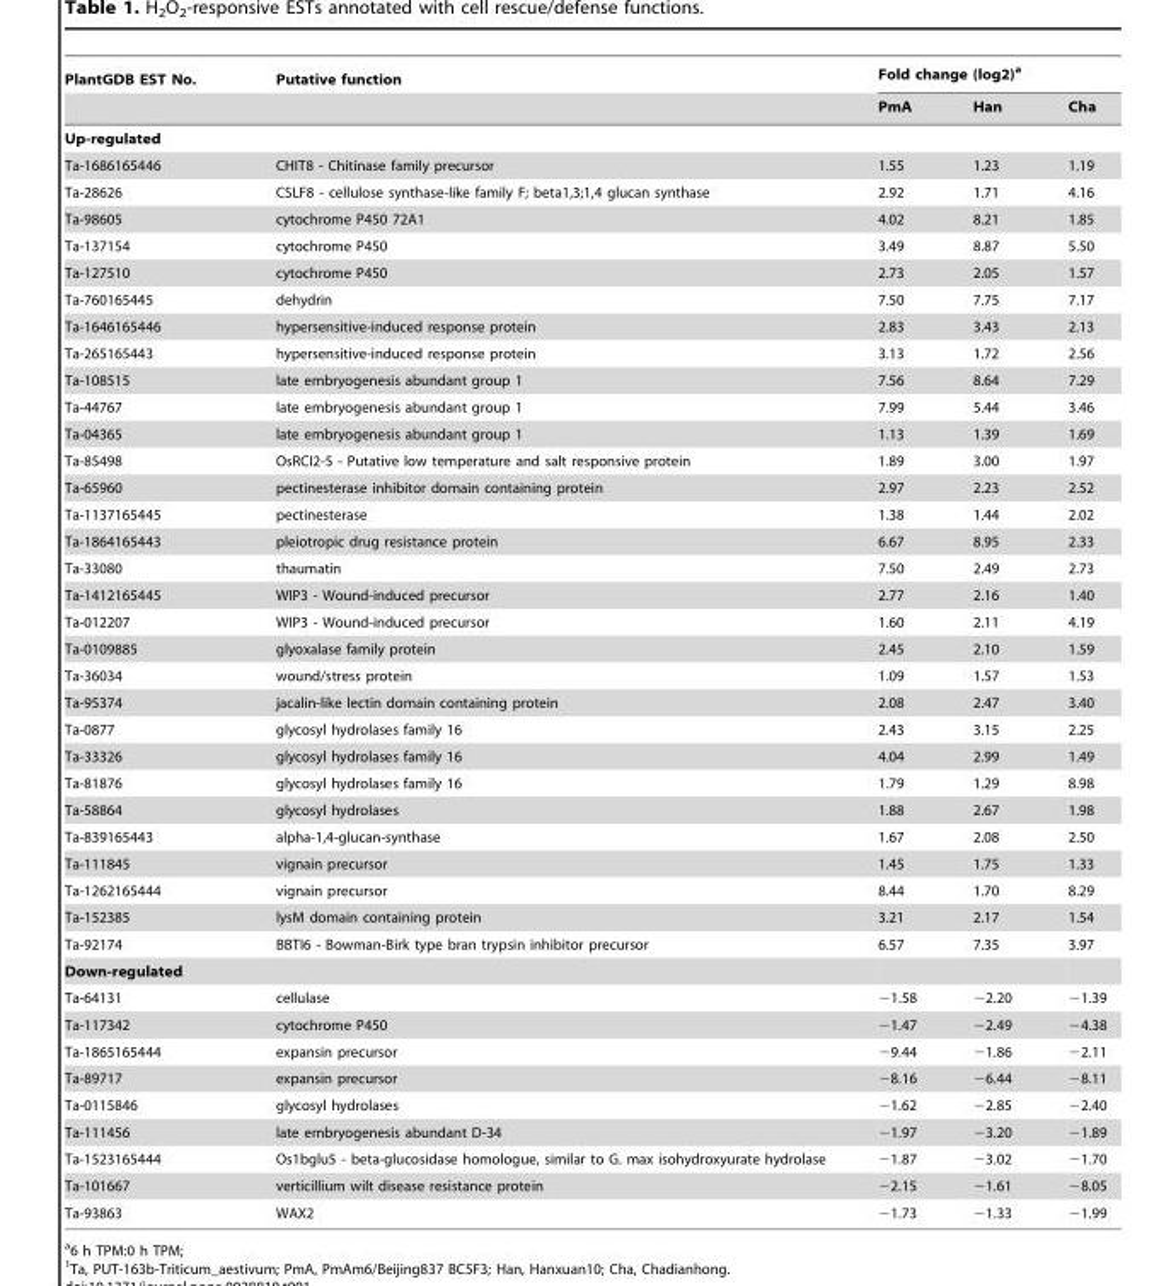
<table><thead><tr><td rowspan="2">PlantGDB EST No.</td><td rowspan="2">Putative function</td><td colspan="3">Fold change (log2)<sup>a</sup></td></tr><tr><td>PmA</td><td>Han</td><td>Cha</td></tr></thead><tbody><tr><td colspan="5">Up-regulated</td></tr><tr><td>Ta-1686165446</td><td>CHIT8 - Chitinase family precursor</td><td>1.55</td><td>1.23</td><td>1.19</td></tr><tr><td>Ta-28626</td><td>CSLF8 - cellulose synthase-like family F; beta1,3;1,4 glucan synthase</td><td>2.92</td><td>1.71</td><td>4.16</td></tr><tr><td>Ta-98605</td><td>cytochrome P450 72A1</td><td>4.02</td><td>8.21</td><td>1.85</td></tr><tr><td>Ta-137154</td><td>cytochrome P450</td><td>3.49</td><td>8.87</td><td>5.50</td></tr><tr><td>Ta-127510</td><td>cytochrome P450</td><td>2.73</td><td>2.05</td><td>1.57</td></tr><tr><td>Ta-760165445</td><td>dehydrin</td><td>7.50</td><td>7.75</td><td>7.17</td></tr><tr><td>Ta-1646165446</td><td>hypersensitive-induced response protein</td><td>2.83</td><td>3.43</td><td>2.13</td></tr><tr><td>Ta-265165443</td><td>hypersensitive-induced response protein</td><td>3.13</td><td>1.72</td><td>2.56</td></tr><tr><td>Ta-108515</td><td>late embryogenesis abundant group 1</td><td>7.56</td><td>8.64</td><td>7.29</td></tr><tr><td>Ta-44767</td><td>late embryogenesis abundant group 1</td><td>7.99</td><td>5.44</td><td>3.46</td></tr><tr><td>Ta-04365</td><td>late embryogenesis abundant group 1</td><td>1.13</td><td>1.39</td><td>1.69</td></tr><tr><td>Ta-85498</td><td>OsRCI2-5 - Putative low temperature and salt responsive protein</td><td>1.89</td><td>3.00</td><td>1.97</td></tr><tr><td>Ta-65960</td><td>pectinesterase inhibitor domain containing protein</td><td>2.97</td><td>2.23</td><td>2.52</td></tr><tr><td>Ta-1137165445</td><td>pectinesterase</td><td>1.38</td><td>1.44</td><td>2.02</td></tr><tr><td>Ta-1864165443</td><td>pleiotropic drug resistance protein</td><td>6.67</td><td>8.95</td><td>2.33</td></tr><tr><td>Ta-33080</td><td>thaumatin</td><td>7.50</td><td>2.49</td><td>2.73</td></tr><tr><td>Ta-1412165445</td><td>WIP3 - Wound-induced precursor</td><td>2.77</td><td>2.16</td><td>1.40</td></tr><tr><td>Ta-012207</td><td>WIP3 - Wound-induced precursor</td><td>1.60</td><td>2.11</td><td>4.19</td></tr><tr><td>Ta-0109885</td><td>glyoxalase family protein</td><td>2.45</td><td>2.10</td><td>1.59</td></tr><tr><td>Ta-36034</td><td>wound/stress protein</td><td>1.09</td><td>1.57</td><td>1.53</td></tr><tr><td>Ta-95374</td><td>jacalin-like lectin domain containing protein</td><td>2.08</td><td>2.47</td><td>3.40</td></tr><tr><td>Ta-0877</td><td>glycosyl hydrolases family 16</td><td>2.43</td><td>3.15</td><td>2.25</td></tr><tr><td>Ta-33326</td><td>glycosyl hydrolases family 16</td><td>4.04</td><td>2.99</td><td>1.49</td></tr><tr><td>Ta-81876</td><td>glycosyl hydrolases family 16</td><td>1.79</td><td>1.29</td><td>8.98</td></tr><tr><td>Ta-58864</td><td>glycosyl hydrolases</td><td>1.88</td><td>2.67</td><td>1.98</td></tr><tr><td>Ta-839165443</td><td>alpha-1,4-glucan-synthase</td><td>1.67</td><td>2.08</td><td>2.50</td></tr><tr><td>Ta-111845</td><td>vignain precursor</td><td>1.45</td><td>1.75</td><td>1.33</td></tr><tr><td>Ta-1262165444</td><td>vignain precursor</td><td>8.44</td><td>1.70</td><td>8.29</td></tr><tr><td>Ta-152385</td><td>lysM domain containing protein</td><td>3.21</td><td>2.17</td><td>1.54</td></tr><tr><td>Ta-92174</td><td>BBTI6 - Bowman-Birk type bran trypsin inhibitor precursor</td><td>6.57</td><td>7.35</td><td>3.97</td></tr><tr><td colspan="5">Down-regulated</td></tr><tr><td>Ta-64131</td><td>cellulase</td><td>−1.58</td><td>−2.20</td><td>−1.39</td></tr><tr><td>Ta-117342</td><td>cytochrome P450</td><td>−1.47</td><td>−2.49</td><td>−4.38</td></tr><tr><td>Ta-1865165444</td><td>expansin precursor</td><td>−9.44</td><td>−1.86</td><td>−2.11</td></tr><tr><td>Ta-89717</td><td>expansin precursor</td><td>−8.16</td><td>−6.44</td><td>−8.11</td></tr><tr><td>Ta-0115846</td><td>glycosyl hydrolases</td><td>−1.62</td><td>−2.85</td><td>−2.40</td></tr><tr><td>Ta-111456</td><td>late embryogenesis abundant D-34</td><td>−1.97</td><td>−3.20</td><td>−1.89</td></tr><tr><td>Ta-1523165444</td><td>Os1bglu5 - beta-glucosidase homologue, similar to G. max isohydroxyurate hydrolase</td><td>−1.87</td><td>−3.02</td><td>−1.70</td></tr><tr><td>Ta-101667</td><td>verticillium wilt disease resistance protein</td><td>−2.15</td><td>−1.61</td><td>−8.05</td></tr><tr><td>Ta-93863</td><td>WAX2</td><td>−1.73</td><td>−1.33</td><td>−1.99</td></tr></tbody></table>